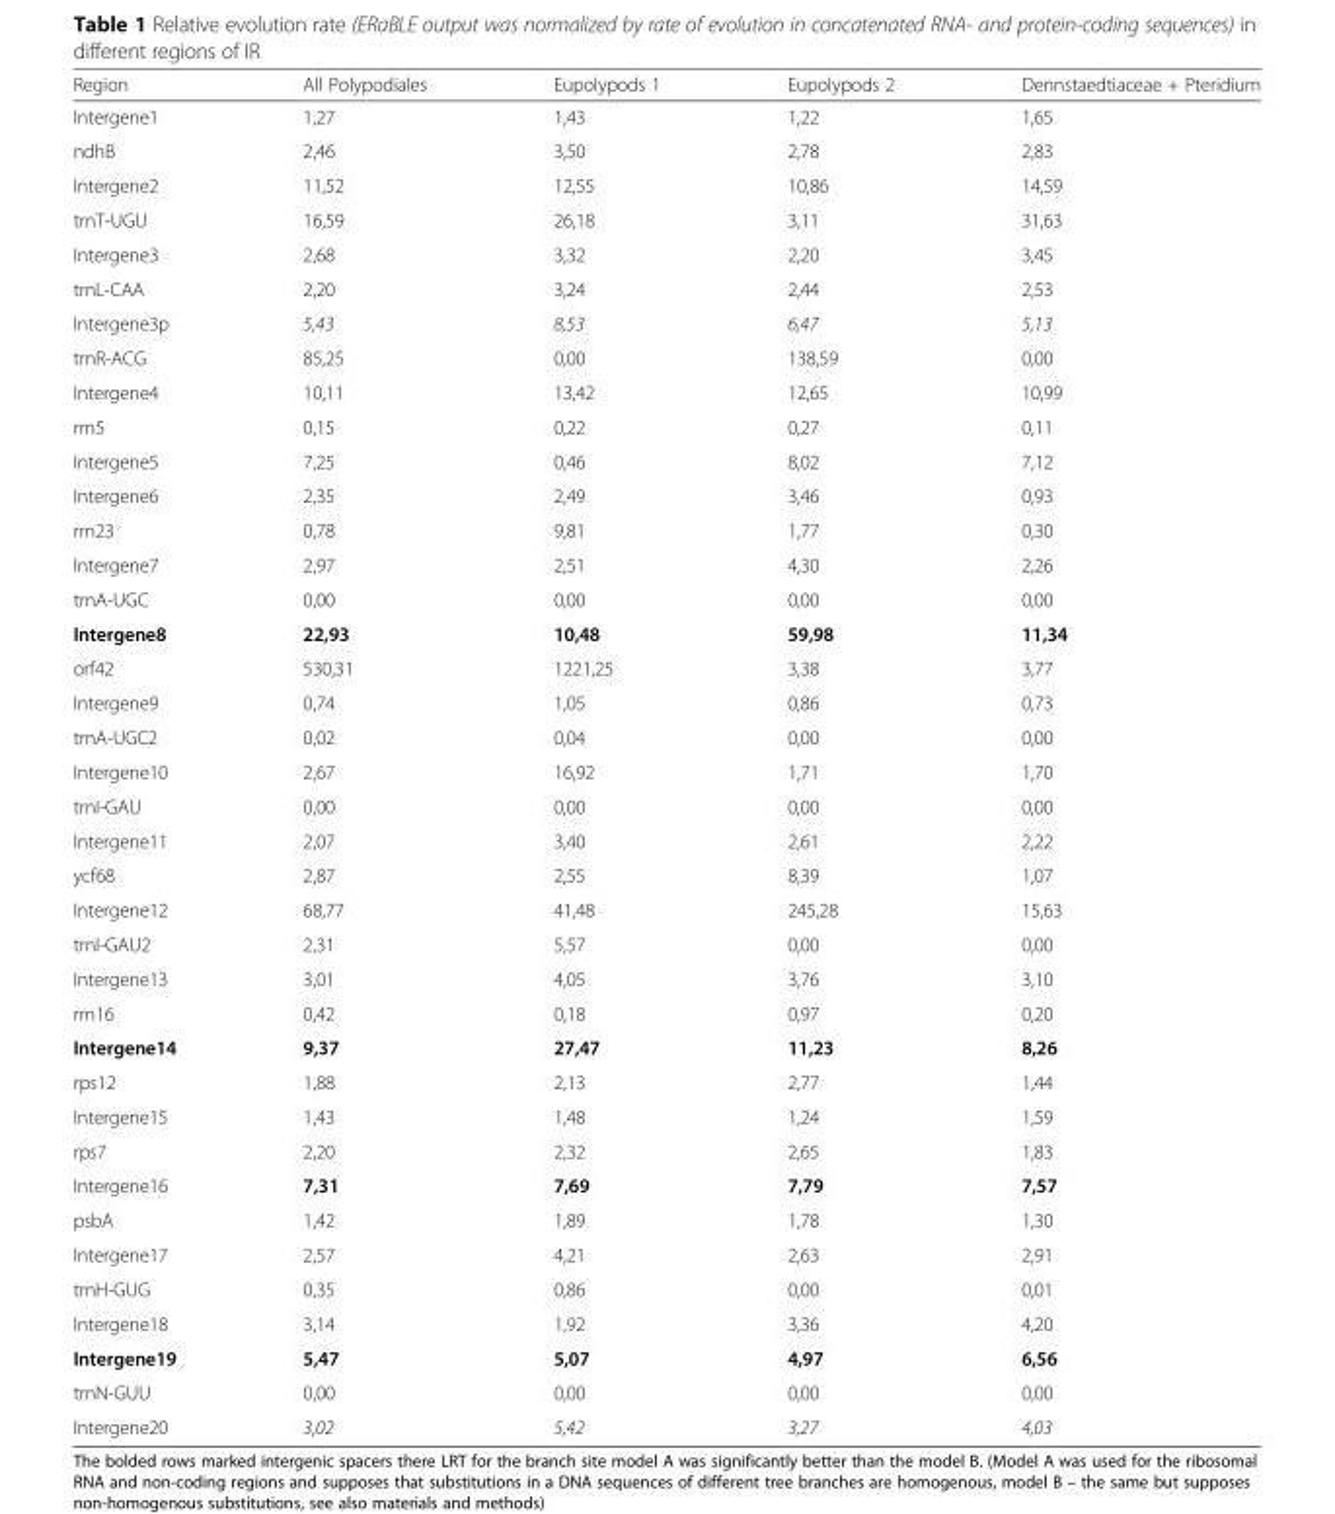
<table><thead><tr><td>Region</td><td>All Polypodiales</td><td>Eupolypods 1</td><td>Eupolypods 2</td><td>Dennstaedtiaceae + Pteridium</td></tr></thead><tbody><tr><td>Intergene1</td><td>1,27</td><td>1,43</td><td>1,22</td><td>1,65</td></tr><tr><td>ndhB</td><td>2,46</td><td>3,50</td><td>2,78</td><td>2,83</td></tr><tr><td>Intergene2</td><td>11,52</td><td>12,55</td><td>10,86</td><td>14,59</td></tr><tr><td>trnT-UGU</td><td>16,59</td><td>26,18</td><td>3,11</td><td>31,63</td></tr><tr><td>Intergene3</td><td>2,68</td><td>3,32</td><td>2,20</td><td>3,45</td></tr><tr><td>trnL-CAA</td><td>2,20</td><td>3,24</td><td>2,44</td><td>2,53</td></tr><tr><td>Intergene3p</td><td>5,43</td><td>8,53</td><td>6,47</td><td>5,13</td></tr><tr><td>trnR-ACG</td><td>85,25</td><td>0,00</td><td>138,59</td><td>0,00</td></tr><tr><td>Intergene4</td><td>10,11</td><td>13,42</td><td>12,65</td><td>10,99</td></tr><tr><td>rrn5</td><td>0,15</td><td>0,22</td><td>0,27</td><td>0,11</td></tr><tr><td>Intergene5</td><td>7,25</td><td>0,46</td><td>8,02</td><td>7,12</td></tr><tr><td>Intergene6</td><td>2,35</td><td>2,49</td><td>3,46</td><td>0,93</td></tr><tr><td>rrn23</td><td>0,78</td><td>9,81</td><td>1,77</td><td>0,30</td></tr><tr><td>Intergene7</td><td>2,97</td><td>2,51</td><td>4,30</td><td>2,26</td></tr><tr><td>trnA-UGC</td><td>0,00</td><td>0,00</td><td>0,00</td><td>0,00</td></tr><tr><td>Intergene8</td><td>22,93</td><td>10,48</td><td>59,98</td><td>11,34</td></tr><tr><td>orf42</td><td>530,31</td><td>1221,25</td><td>3,38</td><td>3,77</td></tr><tr><td>Intergene9</td><td>0,74</td><td>1,05</td><td>0,86</td><td>0,73</td></tr><tr><td>trnA-UGC2</td><td>0,02</td><td>0,04</td><td>0,00</td><td>0,00</td></tr><tr><td>Intergene10</td><td>2,67</td><td>16,92</td><td>1,71</td><td>1,70</td></tr><tr><td>trnI-GAU</td><td>0,00</td><td>0,00</td><td>0,00</td><td>0,00</td></tr><tr><td>Intergene11</td><td>2,07</td><td>3,40</td><td>2,61</td><td>2,22</td></tr><tr><td>ycf68</td><td>2,87</td><td>2,55</td><td>8,39</td><td>1,07</td></tr><tr><td>Intergene12</td><td>68,77</td><td>41,48</td><td>245,28</td><td>15,63</td></tr><tr><td>trnI-GAU2</td><td>2,31</td><td>5,57</td><td>0,00</td><td>0,00</td></tr><tr><td>Intergene13</td><td>3,01</td><td>4,05</td><td>3,76</td><td>3,10</td></tr><tr><td>rrn16</td><td>0,42</td><td>0,18</td><td>0,97</td><td>0,20</td></tr><tr><td>Intergene14</td><td>9,37</td><td>27,47</td><td>11,23</td><td>8,26</td></tr><tr><td>rps12</td><td>1,88</td><td>2,13</td><td>2,77</td><td>1,44</td></tr><tr><td>Intergene15</td><td>1,43</td><td>1,48</td><td>1,24</td><td>1,59</td></tr><tr><td>rps7</td><td>2,20</td><td>2,32</td><td>2,65</td><td>1,83</td></tr><tr><td>Intergene16</td><td>7,31</td><td>7,69</td><td>7,79</td><td>7,57</td></tr><tr><td>psbA</td><td>1,42</td><td>1,89</td><td>1,78</td><td>1,30</td></tr><tr><td>Intergene17</td><td>2,57</td><td>4,21</td><td>2,63</td><td>2,91</td></tr><tr><td>trnH-GUG</td><td>0,35</td><td>0,86</td><td>0,00</td><td>0,01</td></tr><tr><td>Intergene18</td><td>3,14</td><td>1,92</td><td>3,36</td><td>4,20</td></tr><tr><td>Intergene19</td><td>5,47</td><td>5,07</td><td>4,97</td><td>6,56</td></tr><tr><td>trnN-GUU</td><td>0,00</td><td>0,00</td><td>0,00</td><td>0,00</td></tr><tr><td>Intergene20</td><td>3,02</td><td>5,42</td><td>3,27</td><td>4,03</td></tr></tbody></table>